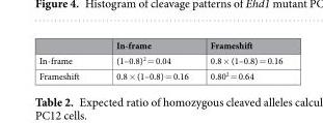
<table><thead><tr><td></td><td>In-frame</td><td>Frameshift</td></tr></thead><tbody><tr><td>In-frame</td><td>(1–0.8)<sup>2</sup> = 0.04</td><td>0.8 × (1–0.8) = 0.16</td></tr><tr><td>Frameshift</td><td>0.8 × (1–0.8) = 0.16</td><td>0.80<sup>2</sup> = 0.64</td></tr></tbody></table>